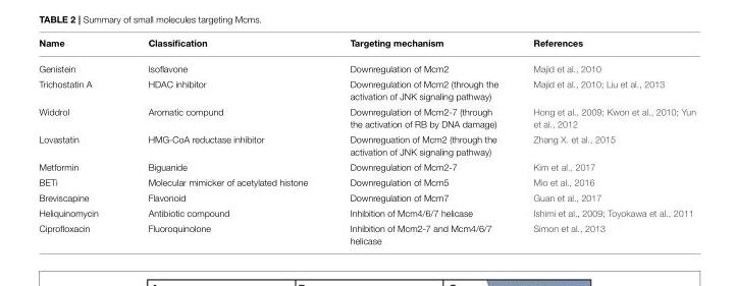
<table><thead><tr><td>Name</td><td>Classification</td><td>Targeting mechanism</td><td>References</td></tr></thead><tbody><tr><td>Genistein</td><td>Isoflavone</td><td>Downregulation of Mcm2</td><td>Majid et al., 2010</td></tr><tr><td>Trichostatin A</td><td>HDAC inhibitor</td><td>Downregulation of Mcm2 (through the activation of JNK signaling pathway)</td><td>Majid et al., 2010; Liu et al., 2013</td></tr><tr><td>Widdrol</td><td>Aromatic compund</td><td>Downregulation of Mcm2-7 (through the activation of RB by DNA damage)</td><td>Hong et al., 2009; Kwon et al., 2010; Yun et al., 2012</td></tr><tr><td>Lovastatin</td><td>HMG-CoA reductase inhibitor</td><td>Downreguation of Mcm2 (through the activation of JNK signaling pathway)</td><td>Zhang X. et al., 2015</td></tr><tr><td>Metformin</td><td>Biguanide</td><td>Downregulation of Mcm2-7</td><td>Kim et al., 2017</td></tr><tr><td>BETi</td><td>Molecular mimicker of acetylated histone</td><td>Downregulation of Mcm5</td><td>Mio et al., 2016</td></tr><tr><td>Breviscapine</td><td>Flavonoid</td><td>Downregulation of Mcm7</td><td>Guan et al., 2017</td></tr><tr><td>Heliquinomycin</td><td>Antibiotic compound</td><td>Inhibition of Mcm4/6/7 helicase</td><td>Ishimi et al., 2009; Toyokawa et al., 2011</td></tr><tr><td>Ciprofloxacin</td><td>Fluoroquinolone</td><td>Inhibition of Mcm2-7 and Mcm4/6/7 helicase</td><td>Simon et al., 2013</td></tr></tbody></table>